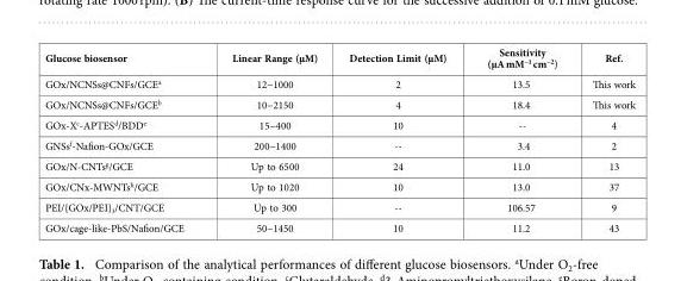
<table><tbody><tr><td>Glucose biosensor</td><td>Linear Range (μM)</td><td>Detection Limit (μM)</td><td>Sensitivity (μA mM<sup>−1</sup> cm<sup>−2</sup>)</td><td>Ref.</td></tr><tr><td>GOx/NCNSs@CNFs/GCE<sup>a</sup></td><td>12−1000</td><td>2</td><td>13.5</td><td>This work</td></tr><tr><td>GOx/NCNSs@CNFs/GCE<sup>b</sup></td><td>10−2150</td><td>4</td><td>18.4</td><td>This work</td></tr><tr><td>GOx-X<sup>c</sup>-APTES<sup>d</sup>/BDD<sup>e</sup></td><td>15−400</td><td>10</td><td>--</td><td>4</td></tr><tr><td>GNSs<sup>f</sup>-Nafion-GOx/GCE</td><td>200−1400</td><td>--</td><td>3.4</td><td>2</td></tr><tr><td>GOx/N-CNTs<sup>g</sup>/GCE</td><td>Up to 6500</td><td>24</td><td>11.0</td><td>13</td></tr><tr><td>GOx/CNx-MWNTs<sup>h</sup>/GCE</td><td>Up to 1020</td><td>10</td><td>13.0</td><td>37</td></tr><tr><td>PEI/{GOx/PEI}<sub>3</sub>/CNT/GCE</td><td>Up to 300</td><td>--</td><td>106.57</td><td>9</td></tr><tr><td>GOx/cage-like-PbS/Nafion/GCE</td><td>50−1450</td><td>10</td><td>11.2</td><td>43</td></tr></tbody></table>